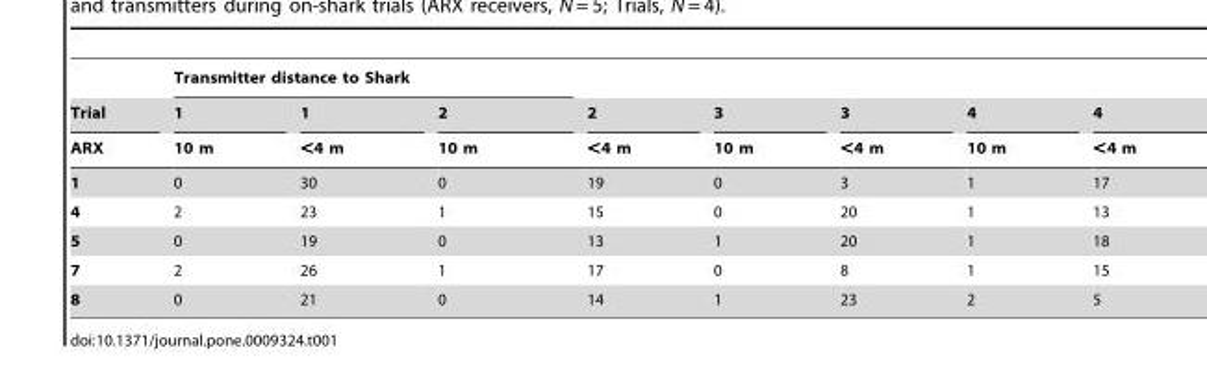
<table><thead><tr><td rowspan="3">Trial ARX</td><td colspan="3">Transmitter distance to Shark</td><td rowspan="3">2 &lt;4 m</td><td rowspan="3">3 10 m</td><td rowspan="3">3 &lt;4 m</td><td rowspan="3">4 10 m</td><td rowspan="3">4 &lt;4 m</td></tr><tr><td rowspan="2">1 10 m</td><td rowspan="2">1 &lt;4 m</td><td rowspan="2">2 10 m</td></tr><tr></tr></thead><tbody><tr><td>1</td><td>0</td><td>30</td><td>0</td><td>19</td><td>0</td><td>3</td><td>1</td><td>17</td></tr><tr><td>4</td><td>2</td><td>23</td><td>1</td><td>15</td><td>0</td><td>20</td><td>1</td><td>13</td></tr><tr><td>5</td><td>0</td><td>19</td><td>0</td><td>13</td><td>1</td><td>20</td><td>1</td><td>18</td></tr><tr><td>7</td><td>2</td><td>26</td><td>1</td><td>17</td><td>0</td><td>8</td><td>1</td><td>15</td></tr><tr><td>8</td><td>0</td><td>21</td><td>0</td><td>14</td><td>1</td><td>23</td><td>2</td><td>5</td></tr></tbody></table>